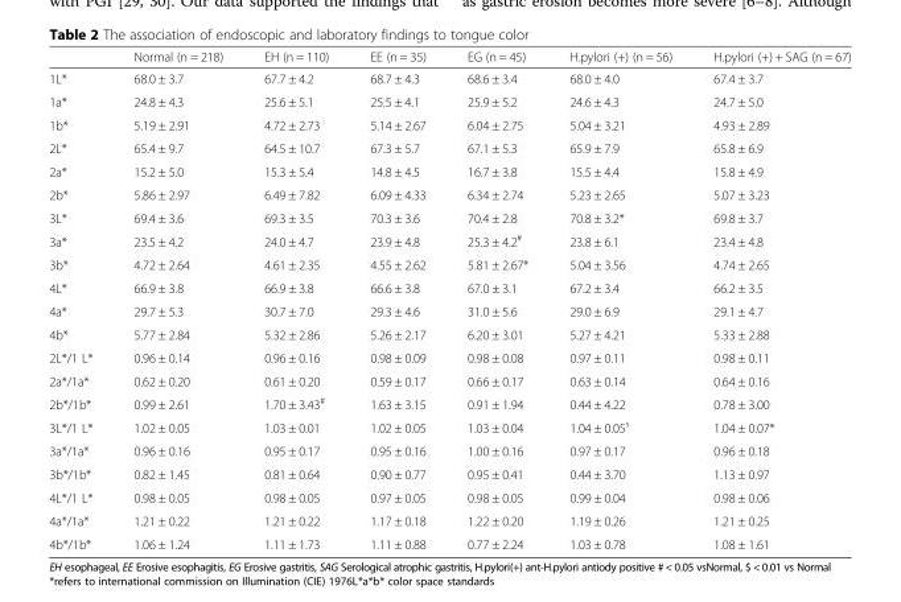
<table><thead><tr><td></td><td>Normal (n = 218)</td><td>EH (n = 110)</td><td>EE (n = 35)</td><td>EG (n = 45)</td><td>H.pylori (+) (n = 56)</td><td>H.pylori (+) + SAG (n = 67)</td></tr></thead><tbody><tr><td>1L*</td><td>68.0 ± 3.7</td><td>67.7 ± 4.2</td><td>68.7 ± 4.3</td><td>68.6 ± 3.4</td><td>68.0 ± 4.0</td><td>67.4 ± 3.7</td></tr><tr><td>1a*</td><td>24.8 ± 4.3</td><td>25.6 ± 5.1</td><td>25.5 ± 4.1</td><td>25.9 ± 5.2</td><td>24.6 ± 4.3</td><td>24.7 ± 5.0</td></tr><tr><td>1b*</td><td>5.19 ± 2.91</td><td>4.72 ± 2.73</td><td>5.14 ± 2.67</td><td>6.04 ± 2.75</td><td>5.04 ± 3.21</td><td>4.93 ± 2.89</td></tr><tr><td>2L*</td><td>65.4 ± 9.7</td><td>64.5 ± 10.7</td><td>67.3 ± 5.7</td><td>67.1 ± 5.3</td><td>65.9 ± 7.9</td><td>65.8 ± 6.9</td></tr><tr><td>2a*</td><td>15.2 ± 5.0</td><td>15.3 ± 5.4</td><td>14.8 ± 4.5</td><td>16.7 ± 3.8</td><td>15.5 ± 4.4</td><td>15.8 ± 4.9</td></tr><tr><td>2b*</td><td>5.86 ± 2.97</td><td>6.49 ± 7.82</td><td>6.09 ± 4.33</td><td>6.34 ± 2.74</td><td>5.23 ± 2.65</td><td>5.07 ± 3.23</td></tr><tr><td>3L*</td><td>69.4 ± 3.6</td><td>69.3 ± 3.5</td><td>70.3 ± 3.6</td><td>70.4 ± 2.8</td><td>70.8 ± 3.2*</td><td>69.8 ± 3.7</td></tr><tr><td>3a*</td><td>23.5 ± 4.2</td><td>24.0 ± 4.7</td><td>23.9 ± 4.8</td><td>25.3 ± 4.2<sup>#</sup></td><td>23.8 ± 6.1</td><td>23.4 ± 4.8</td></tr><tr><td>3b*</td><td>4.72 ± 2.64</td><td>4.61 ± 2.35</td><td>4.55 ± 2.62</td><td>5.81 ± 2.67*</td><td>5.04 ± 3.56</td><td>4.74 ± 2.65</td></tr><tr><td>4L*</td><td>66.9 ± 3.8</td><td>66.9 ± 3.8</td><td>66.6 ± 3.8</td><td>67.0 ± 3.1</td><td>67.2 ± 3.4</td><td>66.2 ± 3.5</td></tr><tr><td>4a*</td><td>29.7 ± 5.3</td><td>30.7 ± 7.0</td><td>29.3 ± 4.6</td><td>31.0 ± 5.6</td><td>29.0 ± 6.9</td><td>29.1 ± 4.7</td></tr><tr><td>4b*</td><td>5.77 ± 2.84</td><td>5.32 ± 2.86</td><td>5.26 ± 2.17</td><td>6.20 ± 3.01</td><td>5.27 ± 4.21</td><td>5.33 ± 2.88</td></tr><tr><td>2L*/1 L*</td><td>0.96 ± 0.14</td><td>0.96 ± 0.16</td><td>0.98 ± 0.09</td><td>0.98 ± 0.08</td><td>0.97 ± 0.11</td><td>0.98 ± 0.11</td></tr><tr><td>2a*/1a*</td><td>0.62 ± 0.20</td><td>0.61 ± 0.20</td><td>0.59 ± 0.17</td><td>0.66 ± 0.17</td><td>0.63 ± 0.14</td><td>0.64 ± 0.16</td></tr><tr><td>2b*/1b*</td><td>0.99 ± 2.61</td><td>1.70 ± 3.43<sup>#</sup></td><td>1.63 ± 3.15</td><td>0.91 ± 1.94</td><td>0.44 ± 4.22</td><td>0.78 ± 3.00</td></tr><tr><td>3L*/1 L*</td><td>1.02 ± 0.05</td><td>1.03 ± 0.01</td><td>1.02 ± 0.05</td><td>1.03 ± 0.04</td><td>1.04 ± 0.05<sup>s</sup></td><td>1.04 ± 0.07*</td></tr><tr><td>3a*/1a*</td><td>0.96 ± 0.16</td><td>0.95 ± 0.17</td><td>0.95 ± 0.16</td><td>1.00 ± 0.16</td><td>0.97 ± 0.17</td><td>0.96 ± 0.18</td></tr><tr><td>3b*/1b*</td><td>0.82 ± 1.45</td><td>0.81 ± 0.64</td><td>0.90 ± 0.77</td><td>0.95 ± 0.41</td><td>0.44 ± 3.70</td><td>1.13 ± 0.97</td></tr><tr><td>4L*/1 L*</td><td>0.98 ± 0.05</td><td>0.98 ± 0.05</td><td>0.97 ± 0.05</td><td>0.98 ± 0.05</td><td>0.99 ± 0.04</td><td>0.98 ± 0.06</td></tr><tr><td>4a*/1a*</td><td>1.21 ± 0.22</td><td>1.21 ± 0.22</td><td>1.17 ± 0.18</td><td>1.22 ± 0.20</td><td>1.19 ± 0.26</td><td>1.21 ± 0.25</td></tr><tr><td>4b*/1b*</td><td>1.06 ± 1.24</td><td>1.11 ± 1.73</td><td>1.11 ± 0.88</td><td>0.77 ± 2.24</td><td>1.03 ± 0.78</td><td>1.08 ± 1.61</td></tr></tbody></table>